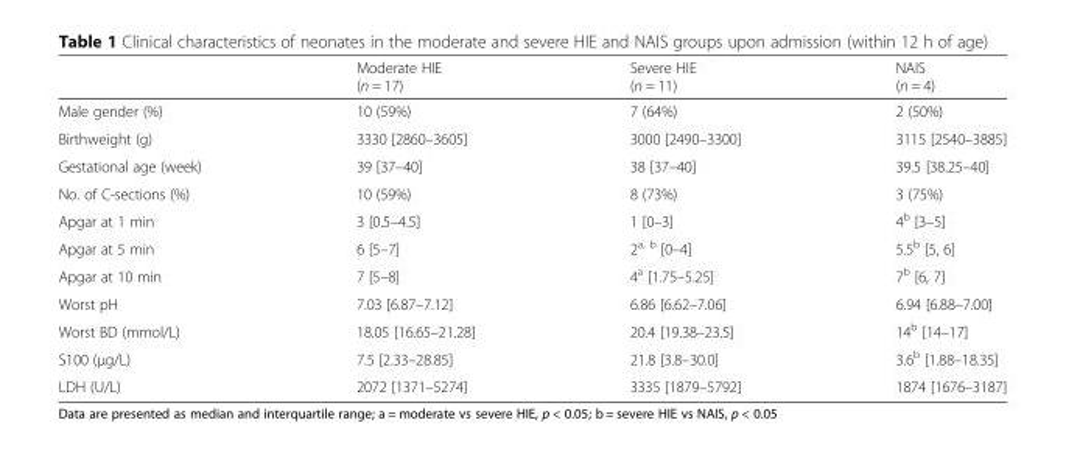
<table><thead><tr><td></td><td>Moderate HIE (n = 17)</td><td>Severe HIE (n = 11)</td><td>NAIS (n = 4)</td></tr></thead><tbody><tr><td>Male gender (%)</td><td>10 (59%)</td><td>7 (64%)</td><td>2 (50%)</td></tr><tr><td>Birthweight (g)</td><td>3330 [2860–3605]</td><td>3000 [2490–3300]</td><td>3115 [2540–3885]</td></tr><tr><td>Gestational age (week)</td><td>39 [37–40]</td><td>38 [37–40]</td><td>39.5 [38.25–40]</td></tr><tr><td>No. of C-sections (%)</td><td>10 (59%)</td><td>8 (73%)</td><td>3 (75%)</td></tr><tr><td>Apgar at 1 min</td><td>3 [0.5–4.5]</td><td>1 [0–3]</td><td>4<sup>b</sup> [3–5]</td></tr><tr><td>Apgar at 5 min</td><td>6 [5–7]</td><td>2<sup>a, b</sup> [0–4]</td><td>5.5<sup>b</sup> [5, 6]</td></tr><tr><td>Apgar at 10 min</td><td>7 [5–8]</td><td>4<sup>a</sup> [1.75–5.25]</td><td>7<sup>b</sup> [6, 7]</td></tr><tr><td>Worst pH</td><td>7.03 [6.87–7.12]</td><td>6.86 [6.62–7.06]</td><td>6.94 [6.88–7.00]</td></tr><tr><td>Worst BD (mmol/L)</td><td>18.05 [16.65–21.28]</td><td>20.4 [19.38–23.5]</td><td>14<sup>b</sup> [14–17]</td></tr><tr><td>S100 (μg/L)</td><td>7.5 [2.33–28.85]</td><td>21.8 [3.8–30.0]</td><td>3.6<sup>b</sup> [1.88–18.35]</td></tr><tr><td>LDH (U/L)</td><td>2072 [1371–5274]</td><td>3335 [1879–5792]</td><td>1874 [1676–3187]</td></tr></tbody></table>